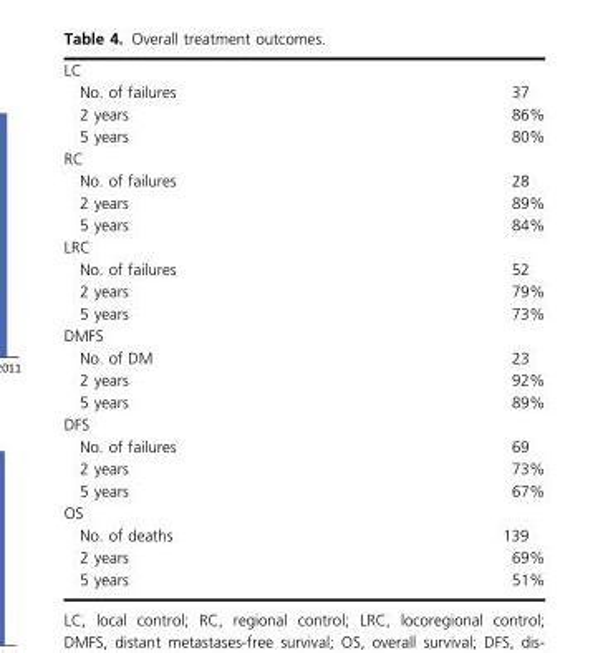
<table><tbody><tr><td colspan="2">LC</td></tr><tr><td>No. of failures</td><td>37</td></tr><tr><td>2 years</td><td>86%</td></tr><tr><td>5 years</td><td>80%</td></tr><tr><td colspan="2">RC</td></tr><tr><td>No. of failures</td><td>28</td></tr><tr><td>2 years</td><td>89%</td></tr><tr><td>5 years</td><td>84%</td></tr><tr><td colspan="2">LRC</td></tr><tr><td>No. of failures</td><td>52</td></tr><tr><td>2 years</td><td>79%</td></tr><tr><td>5 years</td><td>73%</td></tr><tr><td colspan="2">DMFS</td></tr><tr><td>No. of DM</td><td>23</td></tr><tr><td>2 years</td><td>92%</td></tr><tr><td>5 years</td><td>89%</td></tr><tr><td colspan="2">DFS</td></tr><tr><td>No. of failures</td><td>69</td></tr><tr><td>2 years</td><td>73%</td></tr><tr><td>5 years</td><td>67%</td></tr><tr><td colspan="2">OS</td></tr><tr><td>No. of deaths</td><td>139</td></tr><tr><td>2 years</td><td>69%</td></tr><tr><td>5 years</td><td>51%</td></tr></tbody></table>